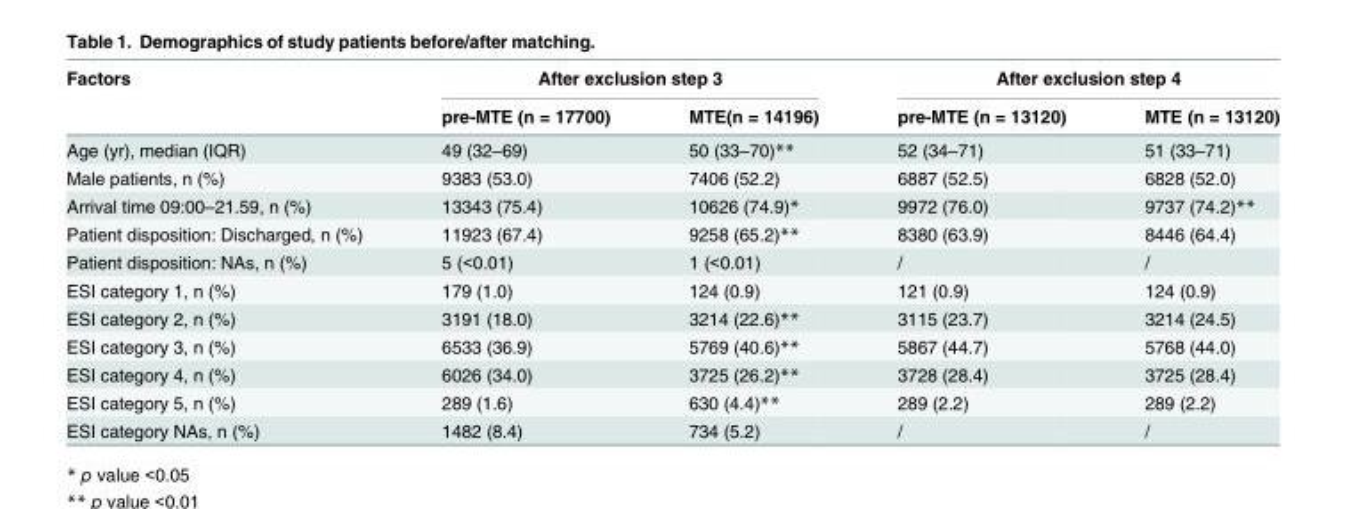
<table><thead><tr><td rowspan="2">Factors</td><td colspan="2">After exclusion step 3</td><td colspan="2">After exclusion step 4</td></tr><tr><td>pre-MTE (n = 17700)</td><td>MTE(n = 14196)</td><td>pre-MTE (n = 13120)</td><td>MTE (n = 13120)</td></tr></thead><tbody><tr><td>Age (yr), median (IQR)</td><td>49 (32–69)</td><td>50 (33–70)**</td><td>52 (34–71)</td><td>51 (33–71)</td></tr><tr><td>Male patients, n (%)</td><td>9383 (53.0)</td><td>7406 (52.2)</td><td>6887 (52.5)</td><td>6828 (52.0)</td></tr><tr><td>Arrival time 09:00–21.59, n (%)</td><td>13343 (75.4)</td><td>10626 (74.9)*</td><td>9972 (76.0)</td><td>9737 (74.2)**</td></tr><tr><td>Patient disposition: Discharged, n (%)</td><td>11923 (67.4)</td><td>9258 (65.2)**</td><td>8380 (63.9)</td><td>8446 (64.4)</td></tr><tr><td>Patient disposition: NAs, n (%)</td><td>5 (&lt;0.01)</td><td>1 (&lt;0.01)</td><td>/</td><td>/</td></tr><tr><td>ESI category 1, n (%)</td><td>179 (1.0)</td><td>124 (0.9)</td><td>121 (0.9)</td><td>124 (0.9)</td></tr><tr><td>ESI category 2, n (%)</td><td>3191 (18.0)</td><td>3214 (22.6)**</td><td>3115 (23.7)</td><td>3214 (24.5)</td></tr><tr><td>ESI category 3, n (%)</td><td>6533 (36.9)</td><td>5769 (40.6)**</td><td>5867 (44.7)</td><td>5768 (44.0)</td></tr><tr><td>ESI category 4, n (%)</td><td>6026 (34.0)</td><td>3725 (26.2)**</td><td>3728 (28.4)</td><td>3725 (28.4)</td></tr><tr><td>ESI category 5, n (%)</td><td>289 (1.6)</td><td>630 (4.4)**</td><td>289 (2.2)</td><td>289 (2.2)</td></tr><tr><td>ESI category NAs, n (%)</td><td>1482 (8.4)</td><td>734 (5.2)</td><td>/</td><td>/</td></tr></tbody></table>